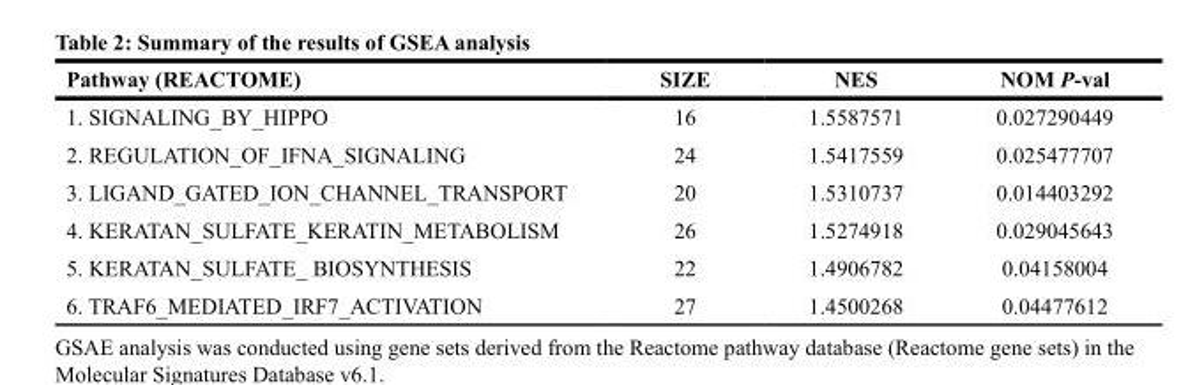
<table><thead><tr><td>Pathway (REACTOME)</td><td>SIZE</td><td>NES</td><td>NOM P-val</td></tr></thead><tbody><tr><td>1. SIGNALING_BY_HIPPO</td><td>16</td><td>1.5587571</td><td>0.027290449</td></tr><tr><td>2. REGULATION_OF_IFNA_SIGNALING</td><td>24</td><td>1.5417559</td><td>0.025477707</td></tr><tr><td>3. LIGAND_GATED_ION_CHANNEL_TRANSPORT</td><td>20</td><td>1.5310737</td><td>0.014403292</td></tr><tr><td>4. KERATAN_SULFATE_KERATIN_METABOLISM</td><td>26</td><td>1.5274918</td><td>0.029045643</td></tr><tr><td>5. KERATAN_SULFATE_ BIOSYNTHESIS</td><td>22</td><td>1.4906782</td><td>0.04158004</td></tr><tr><td>6. TRAF6_MEDIATED_IRF7_ACTIVATION</td><td>27</td><td>1.4500268</td><td>0.04477612</td></tr></tbody></table>